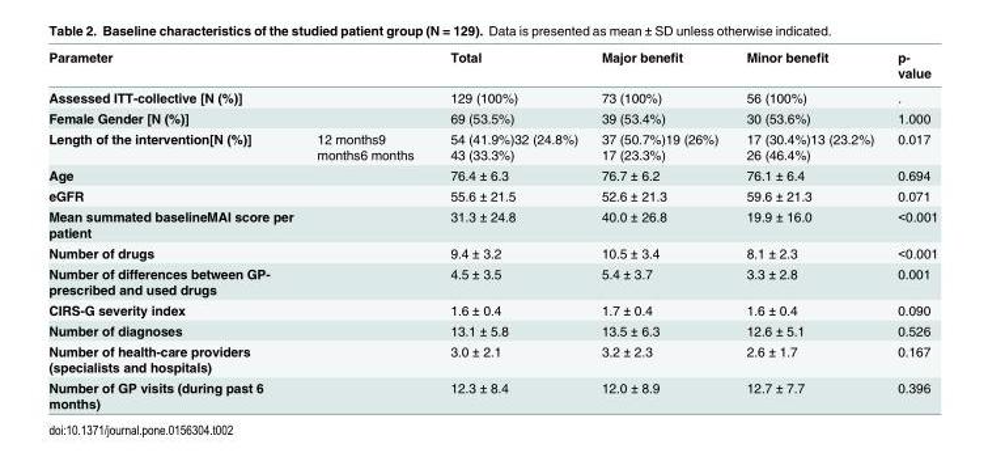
<table><thead><tr><td>Parameter</td><td></td><td>Total</td><td>Major benefit</td><td>Minor benefit</td><td>p- value</td></tr></thead><tbody><tr><td>Assessed ITT-collective [N (%)]</td><td></td><td>129 (100%)</td><td>73 (100%)</td><td>56 (100%)</td><td>.</td></tr><tr><td>Female Gender [N (%)]</td><td></td><td>69 (53.5%)</td><td>39 (53.4%)</td><td>30 (53.6%)</td><td>1.000</td></tr><tr><td>Length of the intervention[N (%)]</td><td>12 months9 months6 months</td><td>54 (41.9%)32 (24.8%) 43 (33.3%)</td><td>37 (50.7%)19 (26%) 17 (23.3%)</td><td>17 (30.4%)13 (23.2%) 26 (46.4%)</td><td>0.017</td></tr><tr><td>Age</td><td></td><td>76.4 ± 6.3</td><td>76.7 ± 6.2</td><td>76.1 ± 6.4</td><td>0.694</td></tr><tr><td>eGFR</td><td></td><td>55.6 ± 21.5</td><td>52.6 ± 21.3</td><td>59.6 ± 21.3</td><td>0.071</td></tr><tr><td>Mean summated baselineMAI score per patient</td><td></td><td>31.3 ± 24.8</td><td>40.0 ± 26.8</td><td>19.9 ± 16.0</td><td>&lt;0.001</td></tr><tr><td>Number of drugs</td><td></td><td>9.4 ± 3.2</td><td>10.5 ± 3.4</td><td>8.1 ± 2.3</td><td>&lt;0.001</td></tr><tr><td>Number of differences between GP- prescribed and used drugs</td><td></td><td>4.5 ± 3.5</td><td>5.4 ± 3.7</td><td>3.3 ± 2.8</td><td>0.001</td></tr><tr><td>CIRS-G severity index</td><td></td><td>1.6 ± 0.4</td><td>1.7 ± 0.4</td><td>1.6 ± 0.4</td><td>0.090</td></tr><tr><td>Number of diagnoses</td><td></td><td>13.1 ± 5.8</td><td>13.5 ± 6.3</td><td>12.6 ± 5.1</td><td>0.526</td></tr><tr><td>Number of health-care providers (specialists and hospitals)</td><td></td><td>3.0 ± 2.1</td><td>3.2 ± 2.3</td><td>2.6 ± 1.7</td><td>0.167</td></tr><tr><td>Number of GP visits (during past 6 months)</td><td></td><td>12.3 ± 8.4</td><td>12.0 ± 8.9</td><td>12.7 ± 7.7</td><td>0.396</td></tr></tbody></table>